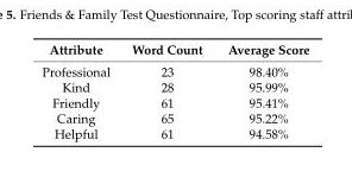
<table><thead><tr><td>Attribute</td><td>Word Count</td><td>Average Score</td></tr></thead><tbody><tr><td>Professional</td><td>23</td><td>98.40%</td></tr><tr><td>Kind</td><td>28</td><td>95.99%</td></tr><tr><td>Friendly</td><td>61</td><td>95.41%</td></tr><tr><td>Caring</td><td>65</td><td>95.22%</td></tr><tr><td>Helpful</td><td>61</td><td>94.58%</td></tr></tbody></table>